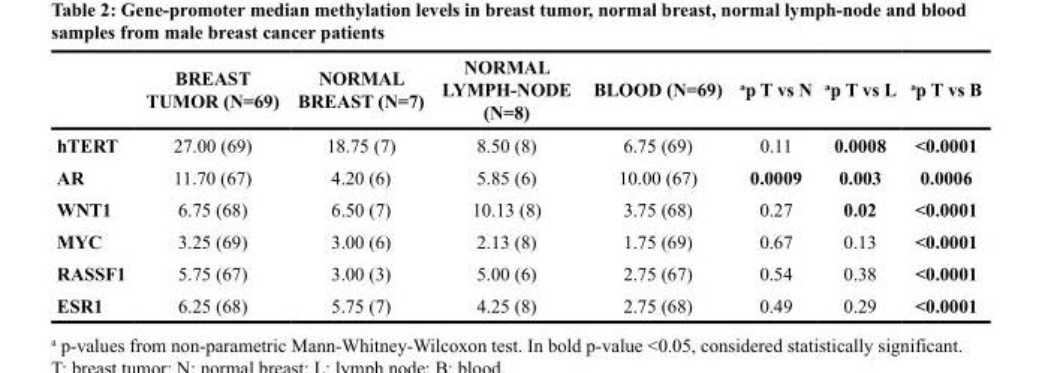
<table><thead><tr><td></td><td>BREAST TUMOR (N=69)</td><td>NORMAL BREAST (N=7)</td><td>NORMAL LYMPH-NODE (N=8)</td><td>BLOOD (N=69)</td><td><sup>a</sup>p T vs N</td><td><sup>a</sup>p T vs L</td><td><sup>a</sup>p T vs B</td></tr></thead><tbody><tr><td>hTERT</td><td>27.00 (69)</td><td>18.75 (7)</td><td>8.50 (8)</td><td>6.75 (69)</td><td>0.11</td><td>0.0008</td><td>&lt;0.0001</td></tr><tr><td>AR</td><td>11.70 (67)</td><td>4.20 (6)</td><td>5.85 (6)</td><td>10.00 (67)</td><td>0.0009</td><td>0.003</td><td>0.0006</td></tr><tr><td>WNT1</td><td>6.75 (68)</td><td>6.50 (7)</td><td>10.13 (8)</td><td>3.75 (68)</td><td>0.27</td><td>0.02</td><td>&lt;0.0001</td></tr><tr><td>MYC</td><td>3.25 (69)</td><td>3.00 (6)</td><td>2.13 (8)</td><td>1.75 (69)</td><td>0.67</td><td>0.13</td><td>&lt;0.0001</td></tr><tr><td>RASSF1</td><td>5.75 (67)</td><td>3.00 (3)</td><td>5.00 (6)</td><td>2.75 (67)</td><td>0.54</td><td>0.38</td><td>&lt;0.0001</td></tr><tr><td>ESR1</td><td>6.25 (68)</td><td>5.75 (7)</td><td>4.25 (8)</td><td>2.75 (68)</td><td>0.49</td><td>0.29</td><td>&lt;0.0001</td></tr></tbody></table>